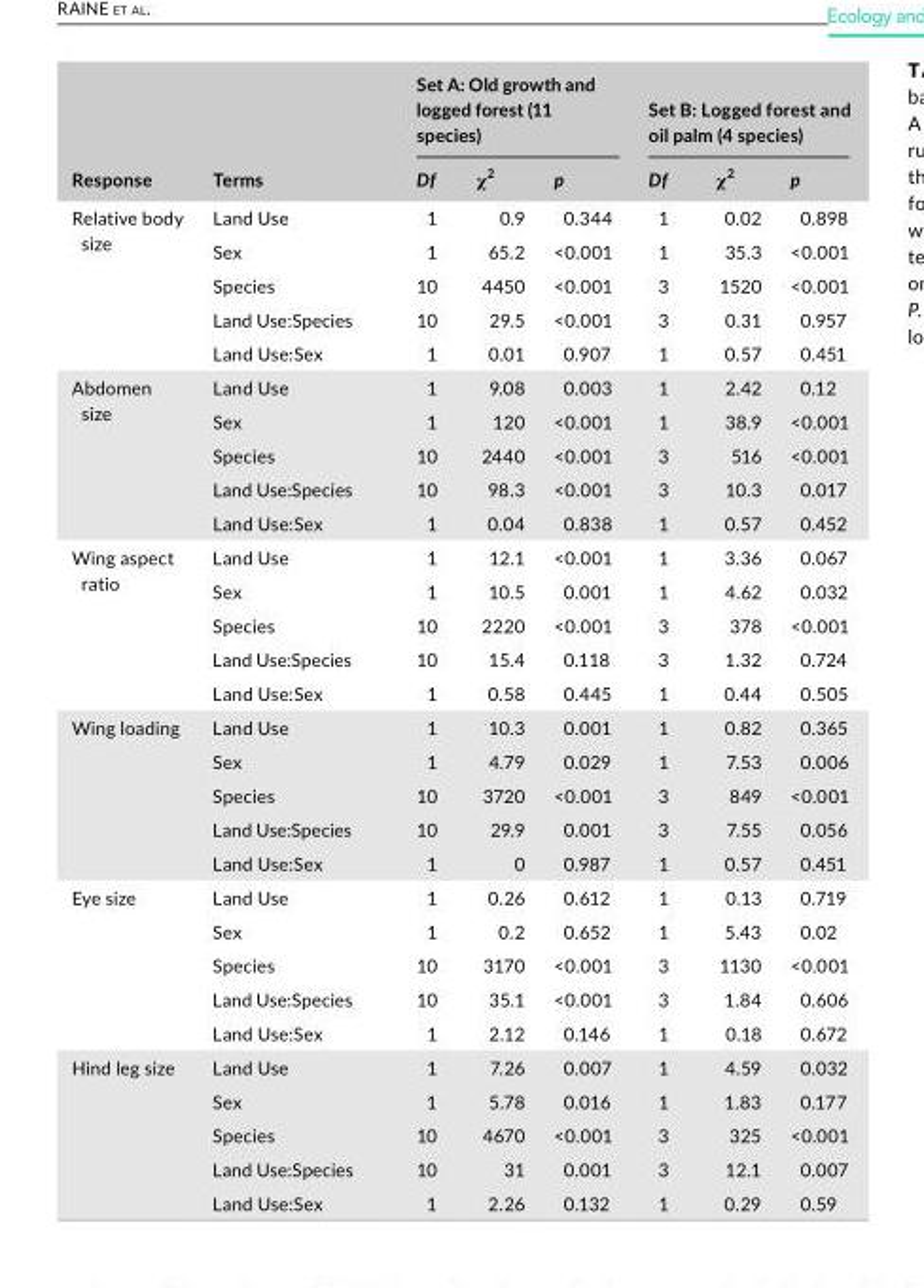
<table><thead><tr><td rowspan="2">Response</td><td rowspan="2">Terms</td><td colspan="3">Set A: Old growth and logged forest (11 species)</td><td colspan="3">Set B: Logged forest and oil palm (4 species)</td></tr><tr><td>Df</td><td>χ<sup>2</sup></td><td>p</td><td>Df</td><td>χ<sup>2</sup></td><td>p</td></tr></thead><tbody><tr><td rowspan="5">Relative body size</td><td>Land Use</td><td>1</td><td>0.9</td><td>0.344</td><td>1</td><td>0.02</td><td>0.898</td></tr><tr><td>Sex</td><td>1</td><td>65.2</td><td>&lt;0.001</td><td>1</td><td>35.3</td><td>&lt;0.001</td></tr><tr><td>Species</td><td>10</td><td>4450</td><td>&lt;0.001</td><td>3</td><td>1520</td><td>&lt;0.001</td></tr><tr><td>Land Use:Species</td><td>10</td><td>29.5</td><td>&lt;0.001</td><td>3</td><td>0.31</td><td>0.957</td></tr><tr><td>Land Use:Sex</td><td>1</td><td>0.01</td><td>0.907</td><td>1</td><td>0.57</td><td>0.451</td></tr><tr><td rowspan="5">Abdomen size</td><td>Land Use</td><td>1</td><td>9.08</td><td>0.003</td><td>1</td><td>2.42</td><td>0.12</td></tr><tr><td>Sex</td><td>1</td><td>120</td><td>&lt;0.001</td><td>1</td><td>38.9</td><td>&lt;0.001</td></tr><tr><td>Species</td><td>10</td><td>2440</td><td>&lt;0.001</td><td>3</td><td>516</td><td>&lt;0.001</td></tr><tr><td>Land Use:Species</td><td>10</td><td>98.3</td><td>&lt;0.001</td><td>3</td><td>10.3</td><td>0.017</td></tr><tr><td>Land Use:Sex</td><td>1</td><td>0.04</td><td>0.838</td><td>1</td><td>0.57</td><td>0.452</td></tr><tr><td rowspan="5">Wing aspect ratio</td><td>Land Use</td><td>1</td><td>12.1</td><td>&lt;0.001</td><td>1</td><td>3.36</td><td>0.067</td></tr><tr><td>Sex</td><td>1</td><td>10.5</td><td>0.001</td><td>1</td><td>4.62</td><td>0.032</td></tr><tr><td>Species</td><td>10</td><td>2220</td><td>&lt;0.001</td><td>3</td><td>378</td><td>&lt;0.001</td></tr><tr><td>Land Use:Species</td><td>10</td><td>15.4</td><td>0.118</td><td>3</td><td>1.32</td><td>0.724</td></tr><tr><td>Land Use:Sex</td><td>1</td><td>0.58</td><td>0.445</td><td>1</td><td>0.44</td><td>0.505</td></tr><tr><td rowspan="5">Wing loading</td><td>Land Use</td><td>1</td><td>10.3</td><td>0.001</td><td>1</td><td>0.82</td><td>0.365</td></tr><tr><td>Sex</td><td>1</td><td>4.79</td><td>0.029</td><td>1</td><td>7.53</td><td>0.006</td></tr><tr><td>Species</td><td>10</td><td>3720</td><td>&lt;0.001</td><td>3</td><td>849</td><td>&lt;0.001</td></tr><tr><td>Land Use:Species</td><td>10</td><td>29.9</td><td>0.001</td><td>3</td><td>7.55</td><td>0.056</td></tr><tr><td>Land Use:Sex</td><td>1</td><td>0</td><td>0.987</td><td>1</td><td>0.57</td><td>0.451</td></tr><tr><td rowspan="5">Eye size</td><td>Land Use</td><td>1</td><td>0.26</td><td>0.612</td><td>1</td><td>0.13</td><td>0.719</td></tr><tr><td>Sex</td><td>1</td><td>0.2</td><td>0.652</td><td>1</td><td>5.43</td><td>0.02</td></tr><tr><td>Species</td><td>10</td><td>3170</td><td>&lt;0.001</td><td>3</td><td>1130</td><td>&lt;0.001</td></tr><tr><td>Land Use:Species</td><td>10</td><td>35.1</td><td>&lt;0.001</td><td>3</td><td>1.84</td><td>0.606</td></tr><tr><td>Land Use:Sex</td><td>1</td><td>2.12</td><td>0.146</td><td>1</td><td>0.18</td><td>0.672</td></tr><tr><td rowspan="5">Hind leg size</td><td>Land Use</td><td>1</td><td>7.26</td><td>0.007</td><td>1</td><td>4.59</td><td>0.032</td></tr><tr><td>Sex</td><td>1</td><td>5.78</td><td>0.016</td><td>1</td><td>1.83</td><td>0.177</td></tr><tr><td>Species</td><td>10</td><td>4670</td><td>&lt;0.001</td><td>3</td><td>325</td><td>&lt;0.001</td></tr><tr><td>Land Use:Species</td><td>10</td><td>31</td><td>0.001</td><td>3</td><td>12.1</td><td>0.007</td></tr><tr><td>Land Use:Sex</td><td>1</td><td>2.26</td><td>0.132</td><td>1</td><td>0.29</td><td>0.59</td></tr></tbody></table>